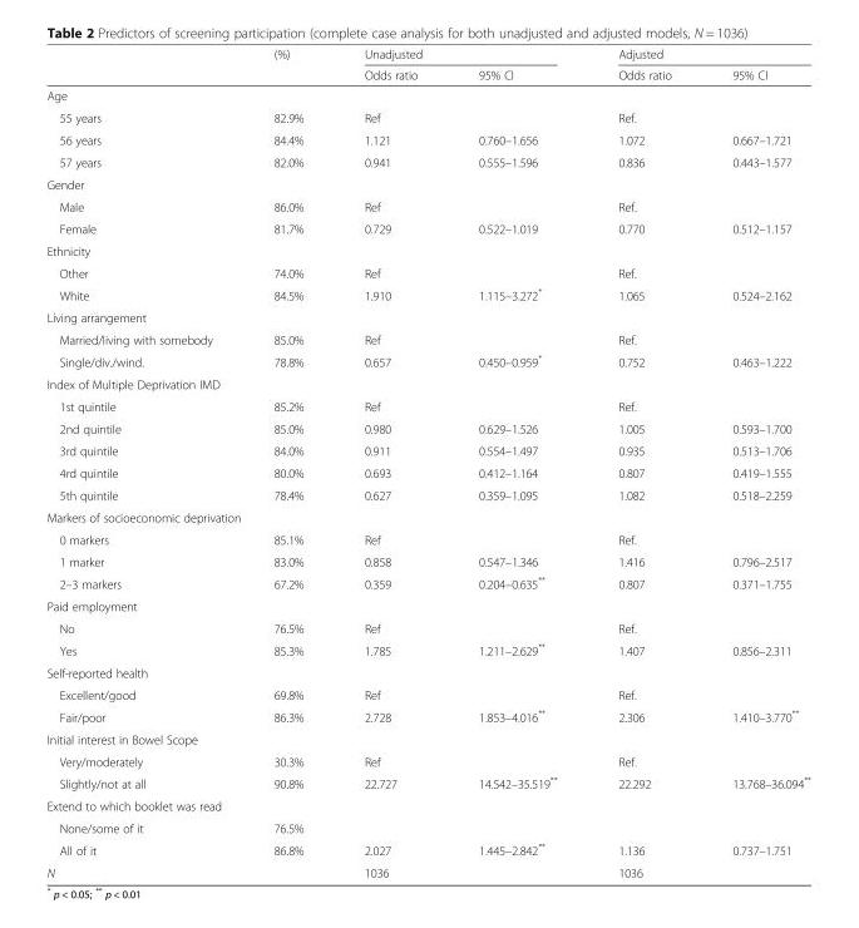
<table><thead><tr><td rowspan="2"></td><td rowspan="2">(%)</td><td colspan="2">Unadjusted</td><td colspan="2">Adjusted</td></tr><tr><td>Odds ratio</td><td>95% CI</td><td>Odds ratio</td><td>95% CI</td></tr></thead><tbody><tr><td colspan="6">Age</td></tr><tr><td>55 years</td><td>82.9%</td><td>Ref</td><td></td><td>Ref.</td><td></td></tr><tr><td>56 years</td><td>84.4%</td><td>1.121</td><td>0.760–1.656</td><td>1.072</td><td>0.667–1.721</td></tr><tr><td>57 years</td><td>82.0%</td><td>0.941</td><td>0.555–1.596</td><td>0.836</td><td>0.443–1.577</td></tr><tr><td colspan="6">Gender</td></tr><tr><td>Male</td><td>86.0%</td><td>Ref</td><td></td><td>Ref.</td><td></td></tr><tr><td>Female</td><td>81.7%</td><td>0.729</td><td>0.522–1.019</td><td>0.770</td><td>0.512–1.157</td></tr><tr><td colspan="6">Ethnicity</td></tr><tr><td>Other</td><td>74.0%</td><td>Ref</td><td></td><td>Ref.</td><td></td></tr><tr><td>White</td><td>84.5%</td><td>1.910</td><td>1.115–3.272*</td><td>1.065</td><td>0.524–2.162</td></tr><tr><td colspan="6">Living arrangement</td></tr><tr><td>Married/living with somebody</td><td>85.0%</td><td>Ref</td><td></td><td>Ref.</td><td></td></tr><tr><td>Single/div./wind.</td><td>78.8%</td><td>0.657</td><td>0.450–0.959*</td><td>0.752</td><td>0.463–1.222</td></tr><tr><td colspan="6">Index of Multiple Deprivation IMD</td></tr><tr><td>1st quintile</td><td>85.2%</td><td>Ref</td><td></td><td>Ref.</td><td></td></tr><tr><td>2nd quintile</td><td>85.0%</td><td>0.980</td><td>0.629–1.526</td><td>1.005</td><td>0.593–1.700</td></tr><tr><td>3rd quintile</td><td>84.0%</td><td>0.911</td><td>0.554–1.497</td><td>0.935</td><td>0.513–1.706</td></tr><tr><td>4rd quintile</td><td>80.0%</td><td>0.693</td><td>0.412–1.164</td><td>0.807</td><td>0.419–1.555</td></tr><tr><td>5th quintile</td><td>78.4%</td><td>0.627</td><td>0.359–1.095</td><td>1.082</td><td>0.518–2.259</td></tr><tr><td colspan="6">Markers of socioeconomic deprivation</td></tr><tr><td>0 markers</td><td>85.1%</td><td>Ref</td><td></td><td>Ref.</td><td></td></tr><tr><td>1 marker</td><td>83.0%</td><td>0.858</td><td>0.547–1.346</td><td>1.416</td><td>0.796–2.517</td></tr><tr><td>2–3 markers</td><td>67.2%</td><td>0.359</td><td>0.204–0.635**</td><td>0.807</td><td>0.371–1.755</td></tr><tr><td colspan="6">Paid employment</td></tr><tr><td>No</td><td>76.5%</td><td>Ref</td><td></td><td>Ref.</td><td></td></tr><tr><td>Yes</td><td>85.3%</td><td>1.785</td><td>1.211–2.629**</td><td>1.407</td><td>0.856–2.311</td></tr><tr><td colspan="6">Self-reported health</td></tr><tr><td>Excellent/good</td><td>69.8%</td><td>Ref</td><td></td><td>Ref.</td><td></td></tr><tr><td>Fair/poor</td><td>86.3%</td><td>2.728</td><td>1.853–4.016**</td><td>2.306</td><td>1.410–3.770**</td></tr><tr><td colspan="6">Initial interest in Bowel Scope</td></tr><tr><td>Very/moderately</td><td>30.3%</td><td>Ref</td><td></td><td>Ref.</td><td></td></tr><tr><td>Slightly/not at all</td><td>90.8%</td><td>22.727</td><td>14.542–35.519**</td><td>22.292</td><td>13.768–36.094**</td></tr><tr><td colspan="6">Extend to which booklet was read</td></tr><tr><td>None/some of it</td><td>76.5%</td><td></td><td></td><td></td><td></td></tr><tr><td>All of it</td><td>86.8%</td><td>2.027</td><td>1.445–2.842**</td><td>1.136</td><td>0.737–1.751</td></tr><tr><td>N</td><td></td><td>1036</td><td></td><td>1036</td><td></td></tr></tbody></table>